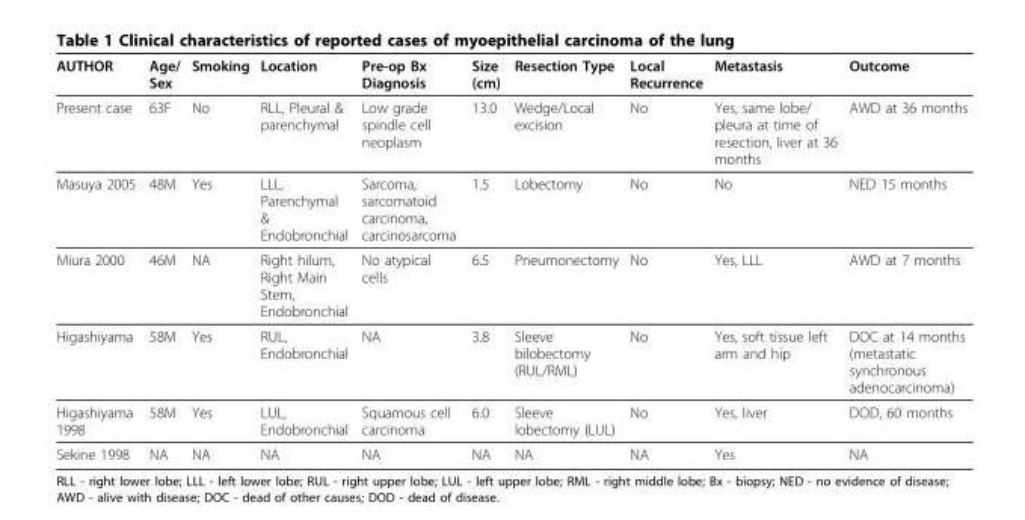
<table><thead><tr><td>AUTHOR</td><td>Age/ Sex</td><td>Smoking</td><td>Location</td><td>Pre-op Bx Diagnosis</td><td>Size (cm)</td><td>Resection Type</td><td>Local Recurrence</td><td>Metastasis</td><td>Outcome</td></tr></thead><tbody><tr><td>Present case</td><td>63F</td><td>No</td><td>RLL, Pleural &amp; parenchymal</td><td>Low grade spindle cell neoplasm</td><td>13.0</td><td>Wedge/Local excision</td><td>No</td><td>Yes, same lobe/ pleura at time of resection, liver at 36 months</td><td>AWD at 36 months</td></tr><tr><td>Masuya 2005</td><td>48M</td><td>Yes</td><td>LLL, Parenchymal &amp; Endobronchial</td><td>Sarcoma, sarcomatoid carcinoma, carcinosarcoma</td><td>1.5</td><td>Lobectomy</td><td>No</td><td>No</td><td>NED 15 months</td></tr><tr><td>Miura 2000</td><td>46M</td><td>NA</td><td>Right hilum, Right Main Stem, Endobronchial</td><td>No atypical cells</td><td>6.5</td><td>Pneumonectomy</td><td>No</td><td>Yes, LLL</td><td>AWD at 7 months</td></tr><tr><td>Higashiyama</td><td>58M</td><td>Yes</td><td>RUL, Endobronchial</td><td>NA</td><td>3.8</td><td>Sleeve bilobectomy (RUL/RML)</td><td>No</td><td>Yes, soft tissue left arm and hip</td><td>DOC at 14 months (metastatic synchronous adenocarcinoma)</td></tr><tr><td>Higashiyama 1998</td><td>58M</td><td>Yes</td><td>LUL, Endobronchial</td><td>Squamous cell carcinoma</td><td>6.0</td><td>Sleeve lobectomy (LUL)</td><td>No</td><td>Yes, liver</td><td>DOD, 60 months</td></tr><tr><td>Sekine 1998</td><td>NA</td><td>NA</td><td>NA</td><td>NA</td><td>NA</td><td>NA</td><td>NA</td><td>Yes</td><td>NA</td></tr></tbody></table>